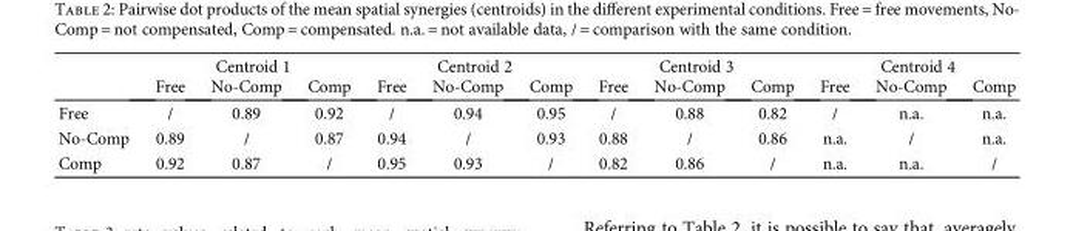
<table><thead><tr><td rowspan="2"></td><td colspan="3">Centroid 1</td><td colspan="3">Centroid 2</td><td colspan="3">Centroid 3</td><td colspan="3">Centroid 4</td></tr><tr><td>Free</td><td>No-Comp</td><td>Comp</td><td>Free</td><td>No-Comp</td><td>Comp</td><td>Free</td><td>No-Comp</td><td>Comp</td><td>Free</td><td>No-Comp</td><td>Comp</td></tr></thead><tbody><tr><td>Free</td><td>/</td><td>0.89</td><td>0.92</td><td>/</td><td>0.94</td><td>0.95</td><td>/</td><td>0.88</td><td>0.82</td><td>/</td><td>n.a.</td><td>n.a.</td></tr><tr><td>No-Comp</td><td>0.89</td><td>/</td><td>0.87</td><td>0.94</td><td>/</td><td>0.93</td><td>0.88</td><td>/</td><td>0.86</td><td>n.a.</td><td>/</td><td>n.a.</td></tr><tr><td>Comp</td><td>0.92</td><td>0.87</td><td>/</td><td>0.95</td><td>0.93</td><td>/</td><td>0.82</td><td>0.86</td><td>/</td><td>n.a.</td><td>n.a.</td><td>/</td></tr></tbody></table>